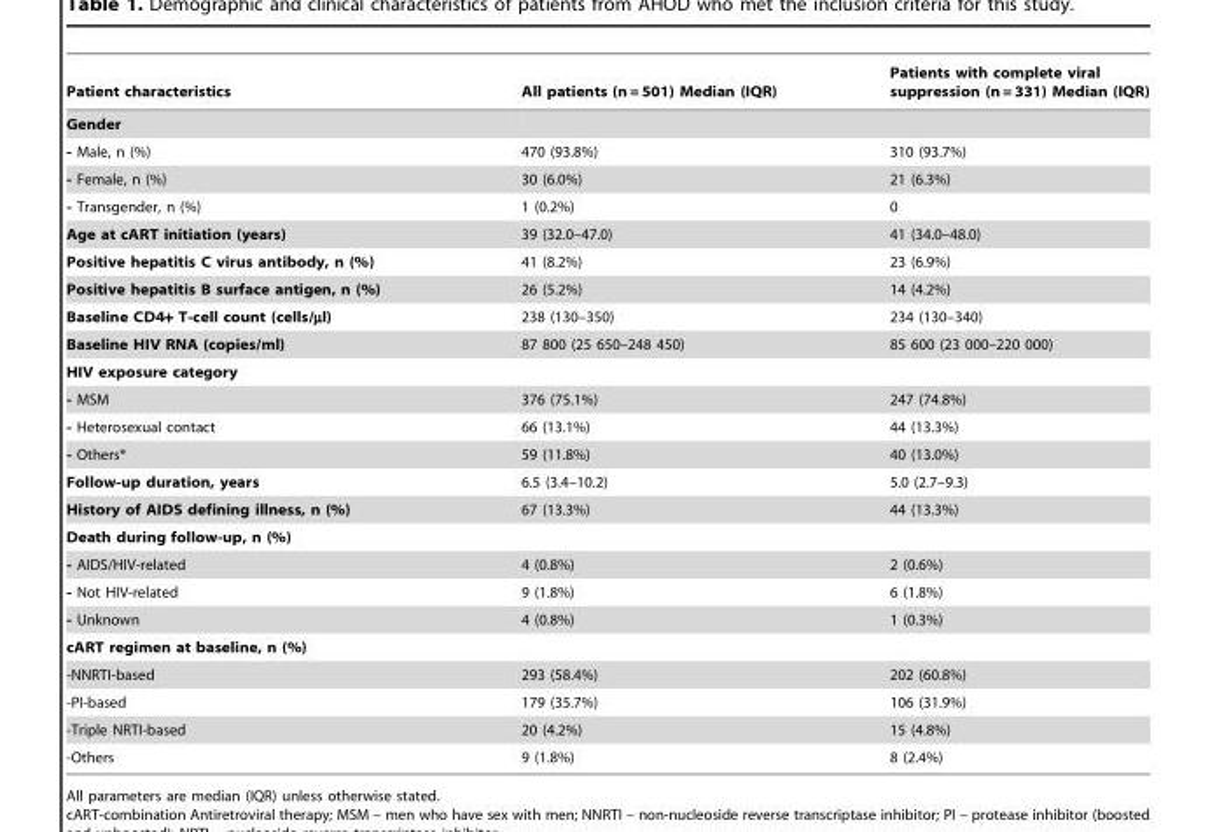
<table><thead><tr><td>Patient characteristics</td><td>All patients (n = 501) Median (IQR)</td><td>Patients with complete viral suppression (n = 331) Median (IQR)</td></tr></thead><tbody><tr><td colspan="3">Gender</td></tr><tr><td>- Male, n (%)</td><td>470 (93.8%)</td><td>310 (93.7%)</td></tr><tr><td>- Female, n (%)</td><td>30 (6.0%)</td><td>21 (6.3%)</td></tr><tr><td>- Transgender, n (%)</td><td>1 (0.2%)</td><td>0</td></tr><tr><td>Age at cART initiation (years)</td><td>39 (32.0–47.0)</td><td>41 (34.0–48.0)</td></tr><tr><td>Positive hepatitis C virus antibody, n (%)</td><td>41 (8.2%)</td><td>23 (6.9%)</td></tr><tr><td>Positive hepatitis B surface antigen, n (%)</td><td>26 (5.2%)</td><td>14 (4.2%)</td></tr><tr><td>Baseline CD4+ T-cell count (cells/µl)</td><td>238 (130–350)</td><td>234 (130–340)</td></tr><tr><td>Baseline HIV RNA (copies/ml)</td><td>87 800 (25 650–248 450)</td><td>85 600 (23 000–220 000)</td></tr><tr><td colspan="3">HIV exposure category</td></tr><tr><td>- MSM</td><td>376 (75.1%)</td><td>247 (74.8%)</td></tr><tr><td>- Heterosexual contact</td><td>66 (13.1%)</td><td>44 (13.3%)</td></tr><tr><td>- Others*</td><td>59 (11.8%)</td><td>40 (13.0%)</td></tr><tr><td>Follow-up duration, years</td><td>6.5 (3.4–10.2)</td><td>5.0 (2.7–9.3)</td></tr><tr><td>History of AIDS defining illness, n (%)</td><td>67 (13.3%)</td><td>44 (13.3%)</td></tr><tr><td colspan="3">Death during follow-up, n (%)</td></tr><tr><td>- AIDS/HIV-related</td><td>4 (0.8%)</td><td>2 (0.6%)</td></tr><tr><td>- Not HIV-related</td><td>9 (1.8%)</td><td>6 (1.8%)</td></tr><tr><td>- Unknown</td><td>4 (0.8%)</td><td>1 (0.3%)</td></tr><tr><td colspan="3">cART regimen at baseline, n (%)</td></tr><tr><td>-NNRTI-based</td><td>293 (58.4%)</td><td>202 (60.8%)</td></tr><tr><td>-PI-based</td><td>179 (35.7%)</td><td>106 (31.9%)</td></tr><tr><td>-Triple NRTI-based</td><td>20 (4.2%)</td><td>15 (4.8%)</td></tr><tr><td>-Others</td><td>9 (1.8%)</td><td>8 (2.4%)</td></tr></tbody></table>